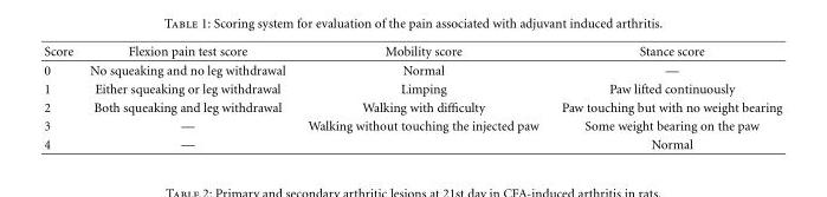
<table><thead><tr><td>Score</td><td>Flexion pain test score</td><td>Mobility score</td><td>Stance score</td></tr></thead><tbody><tr><td>0</td><td>No squeaking and no leg withdrawal</td><td>Normal</td><td>—</td></tr><tr><td>1</td><td>Either squeaking or leg withdrawal</td><td>Limping</td><td>Paw lifted continuously</td></tr><tr><td>2</td><td>Both squeaking and leg withdrawal</td><td>Walking with difficulty</td><td>Paw touching but with no weight bearing</td></tr><tr><td>3</td><td>—</td><td>Walking without touching the injected paw</td><td>Some weight bearing on the paw</td></tr><tr><td>4</td><td>—</td><td></td><td>Normal</td></tr></tbody></table>